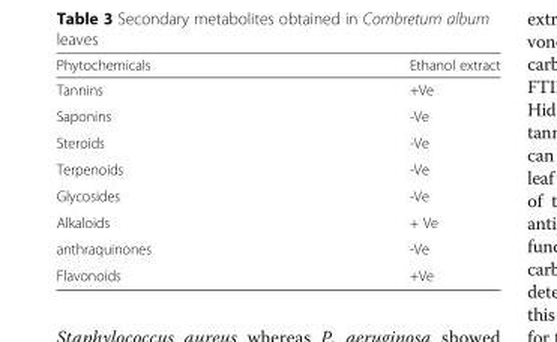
<table><thead><tr><td>Phytochemicals</td><td>Ethanol extract</td></tr></thead><tbody><tr><td>Tannins</td><td>+Ve</td></tr><tr><td>Saponins</td><td>-Ve</td></tr><tr><td>Steroids</td><td>-Ve</td></tr><tr><td>Terpenoids</td><td>-Ve</td></tr><tr><td>Glycosides</td><td>-Ve</td></tr><tr><td>Alkaloids</td><td>+ Ve</td></tr><tr><td>anthraquinones</td><td>-Ve</td></tr><tr><td>Flavonoids</td><td>+Ve</td></tr></tbody></table>